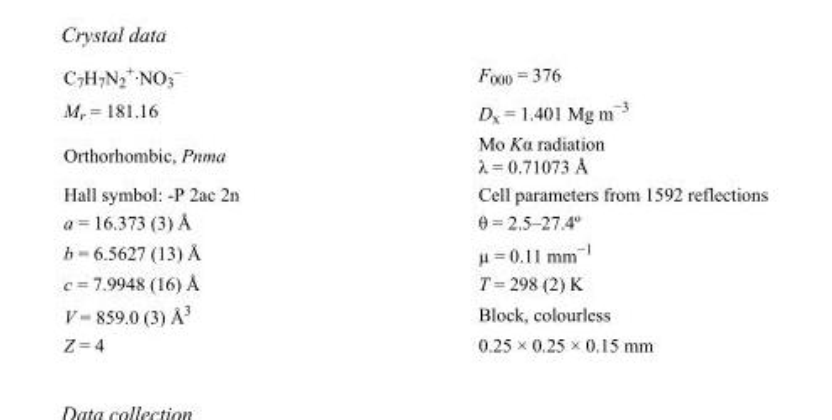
<table><tbody><tr><td>C<sub>7</sub>H<sub>7</sub>N<sub>2</sub> <sup>+</sup>·NO<sub>3</sub> <sup>–</sup></td><td>F<sub>000</sub> = 376</td></tr><tr><td>M<sub>r</sub> = 181.16</td><td>D<sub>x</sub> = 1.401 Mg m<sup>−3</sup></td></tr><tr><td>Orthorhombic, Pnma</td><td>Mo Kα radiation λ = 0.71073 Å</td></tr><tr><td>Hall symbol: -P 2ac 2n</td><td>Cell parameters from 1592 reflections</td></tr><tr><td>a = 16.373 (3) Å</td><td>θ = 2.5–27.4º</td></tr><tr><td>b = 6.5627 (13) Å</td><td>µ = 0.11 mm<sup>−1</sup></td></tr><tr><td>c = 7.9948 (16) Å</td><td>T = 298 (2) K</td></tr><tr><td>V = 859.0 (3) Å<sup>3</sup></td><td>Block, colourless</td></tr><tr><td>Z = 4</td><td>0.25 × 0.25 × 0.15 mm</td></tr></tbody></table>